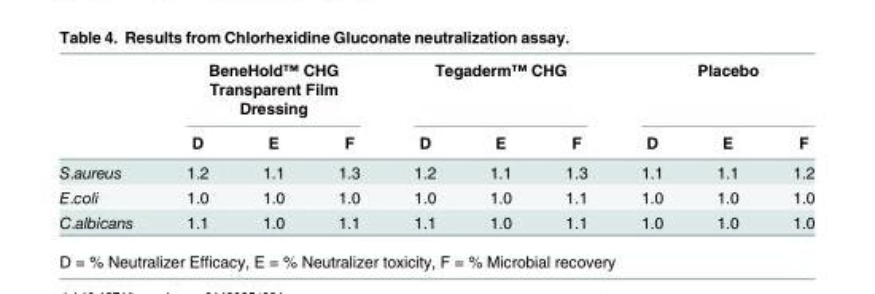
<table><thead><tr><td rowspan="2"></td><td colspan="3">BeneHold™ CHG Transparent Film Dressing</td><td colspan="3">Tegaderm™ CHG</td><td colspan="3">Placebo</td></tr><tr><td>D</td><td>E</td><td>F</td><td>D</td><td>E</td><td>F</td><td>D</td><td>E</td><td>F</td></tr></thead><tbody><tr><td>S.aureus</td><td>1.2</td><td>1.1</td><td>1.3</td><td>1.2</td><td>1.1</td><td>1.3</td><td>1.1</td><td>1.1</td><td>1.2</td></tr><tr><td>E.coli</td><td>1.0</td><td>1.0</td><td>1.0</td><td>1.0</td><td>1.0</td><td>1.1</td><td>1.0</td><td>1.0</td><td>1.0</td></tr><tr><td>C.albicans</td><td>1.1</td><td>1.0</td><td>1.1</td><td>1.1</td><td>1.0</td><td>1.1</td><td>1.0</td><td>1.0</td><td>1.0</td></tr></tbody></table>